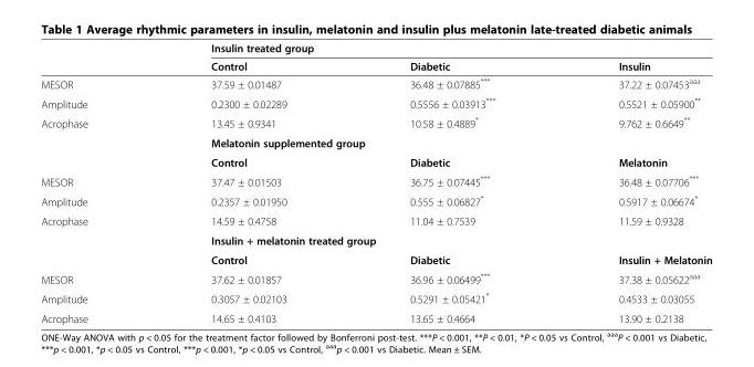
<table><thead><tr><td rowspan="2"></td><td colspan="3">Insulin treated group</td></tr><tr><td>Control</td><td>Diabetic</td><td>Insulin</td></tr></thead><tbody><tr><td>MESOR</td><td>37.59 ± 0.01487</td><td>36.48 ± 0.07885***</td><td>37.22 ± 0.07453<sup>aaa</sup></td></tr><tr><td>Amplitude</td><td>0.2300 ± 0.02289</td><td>0.5556 ± 0.03913***</td><td>0.5521 ± 0.05900**</td></tr><tr><td rowspan="3">Acrophase</td><td>13.45 ± 0.9341</td><td>10.58 ± 0.4889*</td><td>9.762 ± 0.6649**</td></tr><tr><td colspan="3">Melatonin supplemented group</td></tr><tr><td>Control</td><td>Diabetic</td><td>Melatonin</td></tr><tr><td>MESOR</td><td>37.47 ± 0.01503</td><td>36.75 ± 0.07445***</td><td>36.48 ± 0.07706***</td></tr><tr><td>Amplitude</td><td>0.2357 ± 0.01950</td><td>0.555 ± 0.06827*</td><td>0.5917 ± 0.06674*</td></tr><tr><td rowspan="3">Acrophase</td><td>14.59 ± 0.4758</td><td>11.04 ± 0.7539</td><td>11.59 ± 0.9328</td></tr><tr><td colspan="3">Insulin + melatonin treated group</td></tr><tr><td>Control</td><td>Diabetic</td><td>Insulin + Melatonin</td></tr><tr><td>MESOR</td><td>37.62 ± 0.01857</td><td>36.96 ± 0.06499***</td><td>37.38 ± 0.05622<sup>aaa</sup></td></tr><tr><td>Amplitude</td><td>0.3057 ± 0.02103</td><td>0.5291 ± 0.05421*</td><td>0.4533 ± 0.03055</td></tr><tr><td>Acrophase</td><td>14.65 ± 0.4103</td><td>13.65 ± 0.4664</td><td>13.90 ± 0.2138</td></tr></tbody></table>